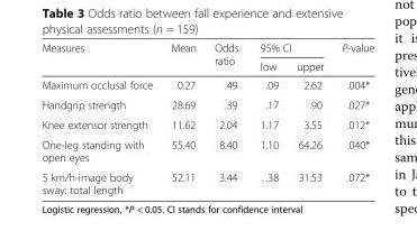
<table><thead><tr><td rowspan="2">Measures</td><td rowspan="2">Mean</td><td rowspan="2">Odds ratio</td><td colspan="2">95% CI</td><td rowspan="2">P-value</td></tr><tr><td>low</td><td>upper</td></tr></thead><tbody><tr><td>Maximum occlusal force</td><td>0.27</td><td>.49</td><td>.09</td><td>2.62</td><td>.004*</td></tr><tr><td>Handgrip strength</td><td>28.69</td><td>.39</td><td>.17</td><td>.90</td><td>.027*</td></tr><tr><td>Knee extensor strength</td><td>11.62</td><td>2.04</td><td>1.17</td><td>3.55</td><td>.012*</td></tr><tr><td>One-leg standing with open eyes</td><td>55.40</td><td>8.40</td><td>1.10</td><td>64.26</td><td>.040*</td></tr><tr><td>5 km/h-image body sway: total length</td><td>52.11</td><td>3.44</td><td>.38</td><td>31.53</td><td>.072*</td></tr></tbody></table>